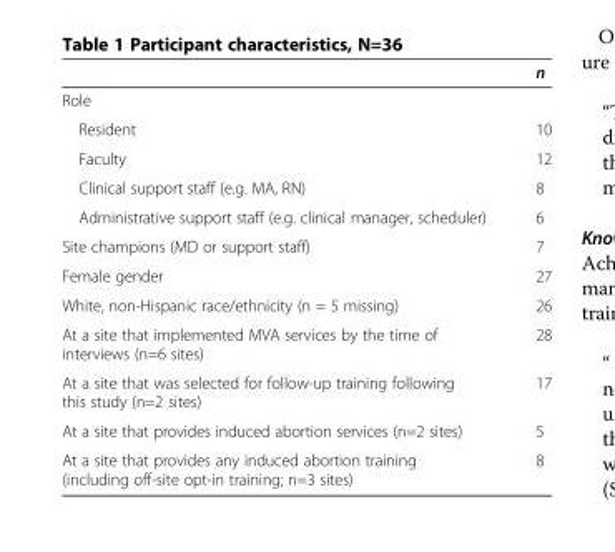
<table><thead><tr><td></td><td>n</td></tr></thead><tbody><tr><td colspan="2">Role</td></tr><tr><td>Resident</td><td>10</td></tr><tr><td>Faculty</td><td>12</td></tr><tr><td>Clinical support staff (e.g. MA, RN)</td><td>8</td></tr><tr><td>Administrative support staff (e.g. clinical manager, scheduler)</td><td>6</td></tr><tr><td>Site champions (MD or support staff)</td><td>7</td></tr><tr><td>Female gender</td><td>27</td></tr><tr><td>White, non-Hispanic race/ethnicity (n = 5 missing)</td><td>26</td></tr><tr><td>At a site that implemented MVA services by the time of interviews (n=6 sites)</td><td>28</td></tr><tr><td>At a site that was selected for follow-up training following this study (n=2 sites)</td><td>17</td></tr><tr><td>At a site that provides induced abortion services (n=2 sites)</td><td>5</td></tr><tr><td>At a site that provides any induced abortion training (including off-site opt-in training; n=3 sites)</td><td>8</td></tr></tbody></table>